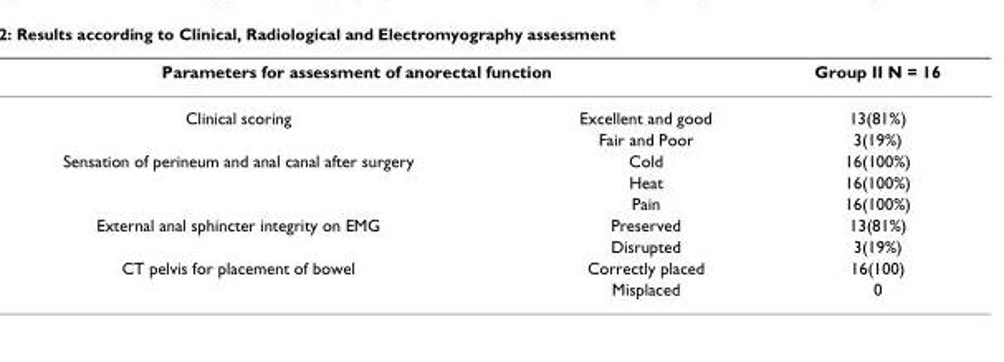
<table><thead><tr><td colspan="2">Parameters for assessment of anorectal function</td><td rowspan="2">Group II N = 16 13(81%)</td></tr><tr><td>Clinical scoring</td><td>Excellent and good</td></tr></thead><tbody><tr><td></td><td>Fair and Poor</td><td>3(19%)</td></tr><tr><td rowspan="3">Sensation of perineum and anal canal after surgery</td><td>Cold</td><td>16(100%)</td></tr><tr><td>Heat</td><td>16(100%)</td></tr><tr><td>Pain</td><td>16(100%)</td></tr><tr><td rowspan="2">External anal sphincter integrity on EMG</td><td>Preserved</td><td>13(81%)</td></tr><tr><td>Disrupted</td><td>3(19%)</td></tr><tr><td rowspan="2">CT pelvis for placement of bowel</td><td>Correctly placed</td><td>16(100)</td></tr><tr><td>Misplaced</td><td>0</td></tr></tbody></table>